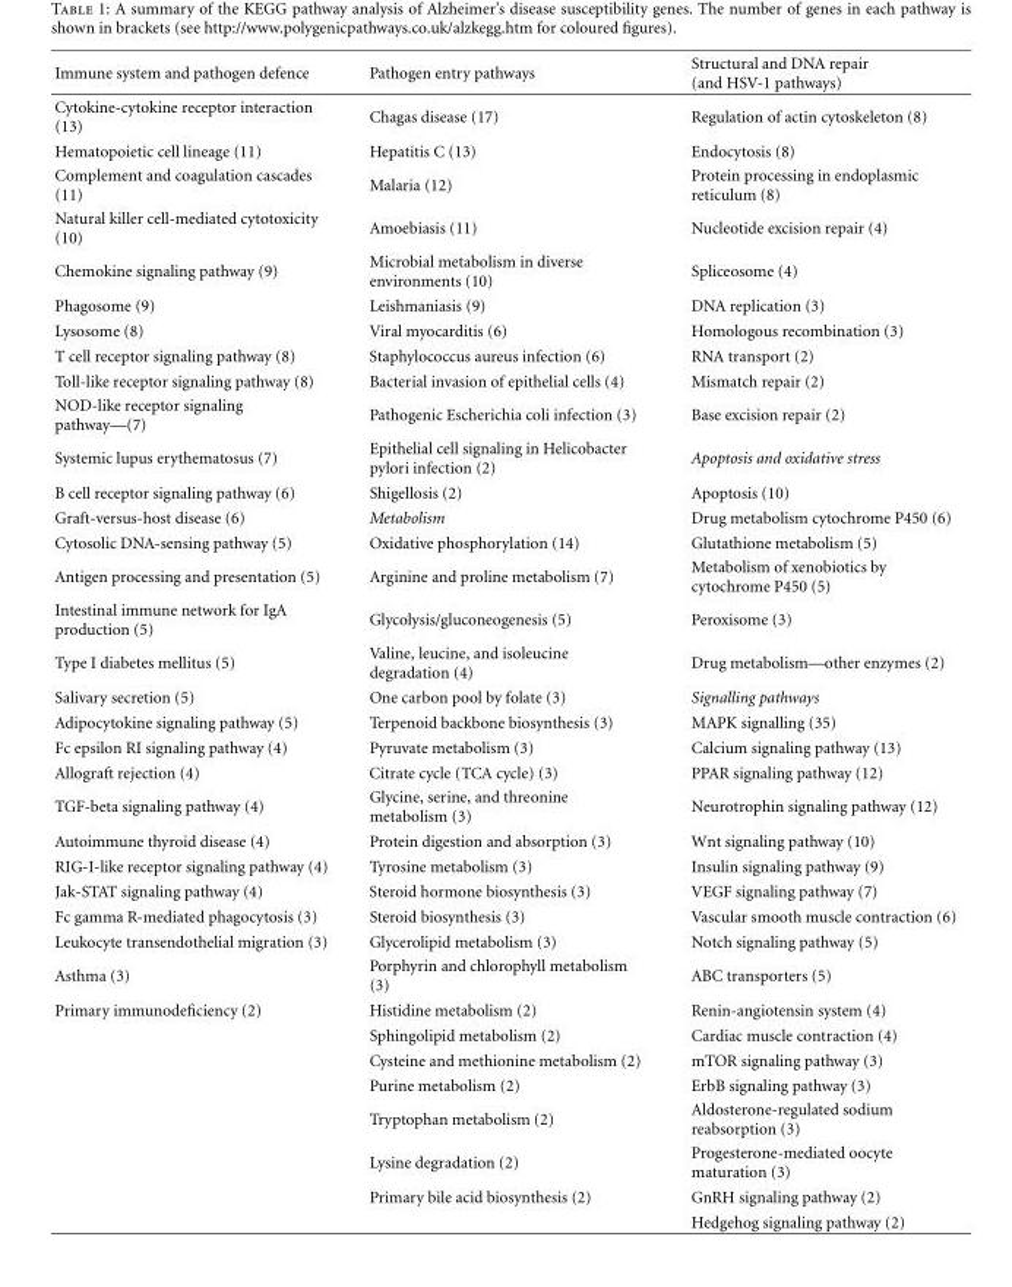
<table><thead><tr><td>Immune system and pathogen defence</td><td>Pathogen entry pathways</td><td>Structural and DNA repair (and HSV-1 pathways)</td></tr></thead><tbody><tr><td>Cytokine-cytokine receptor interaction (13)</td><td>Chagas disease (17)</td><td>Regulation of actin cytoskeleton (8)</td></tr><tr><td>Hematopoietic cell lineage (11)</td><td>Hepatitis C (13)</td><td>Endocytosis (8)</td></tr><tr><td>Complement and coagulation cascades (11)</td><td>Malaria (12)</td><td>Protein processing in endoplasmic reticulum (8)</td></tr><tr><td>Natural killer cell-mediated cytotoxicity (10)</td><td>Amoebiasis (11)</td><td>Nucleotide excision repair (4)</td></tr><tr><td>Chemokine signaling pathway (9)</td><td>Microbial metabolism in diverse environments (10)</td><td>Spliceosome (4)</td></tr><tr><td>Phagosome (9)</td><td>Leishmaniasis (9)</td><td>DNA replication (3)</td></tr><tr><td>Lysosome (8)</td><td>Viral myocarditis (6)</td><td>Homologous recombination (3)</td></tr><tr><td>T cell receptor signaling pathway (8)</td><td>Staphylococcus aureus infection (6)</td><td>RNA transport (2)</td></tr><tr><td>Toll-like receptor signaling pathway (8)</td><td>Bacterial invasion of epithelial cells (4)</td><td>Mismatch repair (2)</td></tr><tr><td>NOD-like receptor signaling pathway—(7)</td><td>Pathogenic Escherichia coli infection (3)</td><td>Base excision repair (2)</td></tr><tr><td>Systemic lupus erythematosus (7)</td><td>Epithelial cell signaling in Helicobacter pylori infection (2)</td><td>Apoptosis and oxidative stress</td></tr><tr><td>B cell receptor signaling pathway (6)</td><td>Shigellosis (2)</td><td>Apoptosis (10)</td></tr><tr><td>Graft-versus-host disease (6)</td><td>Metabolism</td><td>Drug metabolism cytochrome P450 (6)</td></tr><tr><td>Cytosolic DNA-sensing pathway (5)</td><td>Oxidative phosphorylation (14)</td><td>Glutathione metabolism (5)</td></tr><tr><td>Antigen processing and presentation (5)</td><td>Arginine and proline metabolism (7)</td><td>Metabolism of xenobiotics by cytochrome P450 (5)</td></tr><tr><td>Intestinal immune network for IgA production (5)</td><td>Glycolysis/gluconeogenesis (5)</td><td>Peroxisome (3)</td></tr><tr><td>Type I diabetes mellitus (5)</td><td>Valine, leucine, and isoleucine degradation (4)</td><td>Drug metabolism—other enzymes (2)</td></tr><tr><td>Salivary secretion (5)</td><td>One carbon pool by folate (3)</td><td>Signalling pathways</td></tr><tr><td>Adipocytokine signaling pathway (5)</td><td>Terpenoid backbone biosynthesis (3)</td><td>MAPK signalling (35)</td></tr><tr><td>Fc epsilon RI signaling pathway (4)</td><td>Pyruvate metabolism (3)</td><td>Calcium signaling pathway (13)</td></tr><tr><td>Allograft rejection (4)</td><td>Citrate cycle (TCA cycle) (3)</td><td>PPAR signaling pathway (12)</td></tr><tr><td>TGF-beta signaling pathway (4)</td><td>Glycine, serine, and threonine metabolism (3)</td><td>Neurotrophin signaling pathway (12)</td></tr><tr><td>Autoimmune thyroid disease (4)</td><td>Protein digestion and absorption (3)</td><td>Wnt signaling pathway (10)</td></tr><tr><td>RIG-I-like receptor signaling pathway (4)</td><td>Tyrosine metabolism (3)</td><td>Insulin signaling pathway (9)</td></tr><tr><td>Jak-STAT signaling pathway (4)</td><td>Steroid hormone biosynthesis (3)</td><td>VEGF signaling pathway (7)</td></tr><tr><td>Fc gamma R-mediated phagocytosis (3)</td><td>Steroid biosynthesis (3)</td><td>Vascular smooth muscle contraction (6)</td></tr><tr><td>Leukocyte transendothelial migration (3)</td><td>Glycerolipid metabolism (3)</td><td>Notch signaling pathway (5)</td></tr><tr><td>Asthma (3)</td><td>Porphyrin and chlorophyll metabolism (3)</td><td>ABC transporters (5)</td></tr><tr><td rowspan="8">Primary immunodeficiency (2)</td><td>Histidine metabolism (2)</td><td>Renin-angiotensin system (4)</td></tr><tr><td>Sphingolipid metabolism (2)</td><td>Cardiac muscle contraction (4)</td></tr><tr><td>Cysteine and methionine metabolism (2)</td><td>mTOR signaling pathway (3)</td></tr><tr><td>Purine metabolism (2)</td><td>ErbB signaling pathway (3)</td></tr><tr><td>Tryptophan metabolism (2)</td><td>Aldosterone-regulated sodium reabsorption (3)</td></tr><tr><td>Lysine degradation (2)</td><td>Progesterone-mediated oocyte maturation (3)</td></tr><tr><td>Primary bile acid biosynthesis (2)</td><td>GnRH signaling pathway (2)</td></tr><tr><td></td><td>Hedgehog signaling pathway (2)</td></tr></tbody></table>